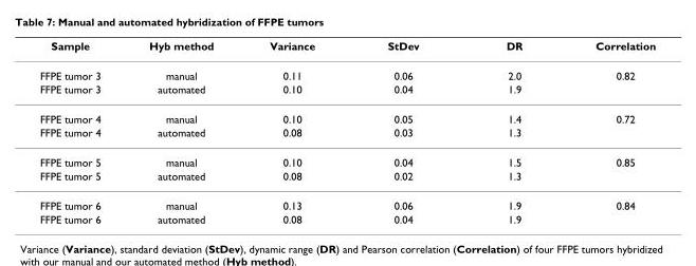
<table><thead><tr><td>Sample</td><td>Hyb method</td><td>Variance</td><td>StDev</td><td>DR</td><td>Correlation</td></tr></thead><tbody><tr><td>FFPE tumor 3</td><td>manual</td><td>0.11</td><td>0.06</td><td>2.0</td><td>0.82</td></tr><tr><td>FFPE tumor 3</td><td>automated</td><td>0.10</td><td>0.04</td><td>1.9</td><td></td></tr><tr><td>FFPE tumor 4</td><td>manual</td><td>0.10</td><td>0.05</td><td>1.4</td><td>0.72</td></tr><tr><td>FFPE tumor 4</td><td>automated</td><td>0.08</td><td>0.03</td><td>1.3</td><td></td></tr><tr><td>FFPE tumor 5</td><td>manual</td><td>0.10</td><td>0.04</td><td>1.5</td><td>0.85</td></tr><tr><td>FFPE tumor 5</td><td>automated</td><td>0.08</td><td>0.02</td><td>1.3</td><td></td></tr><tr><td>FFPE tumor 6</td><td>manual</td><td>0.13</td><td>0.06</td><td>1.9</td><td>0.84</td></tr><tr><td>FFPE tumor 6</td><td>automated</td><td>0.08</td><td>0.04</td><td>1.9</td><td></td></tr></tbody></table>